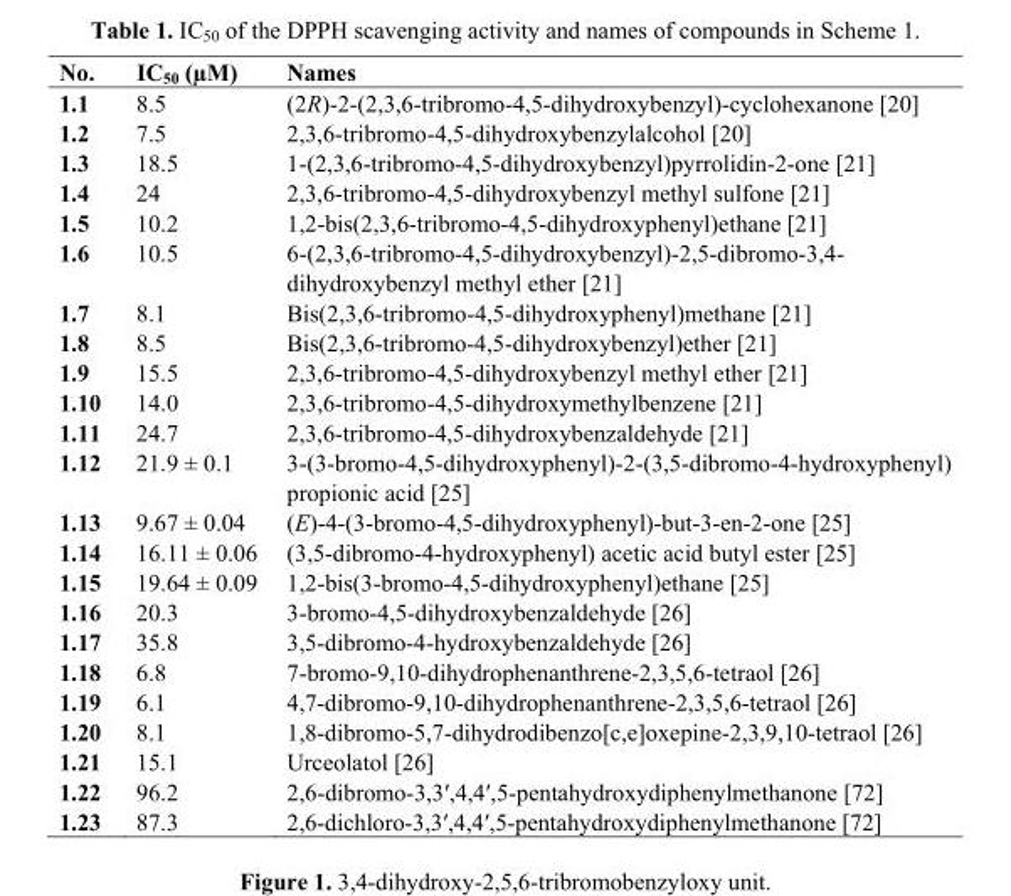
<table><thead><tr><td>No.</td><td>IC<sub>50</sub> (µM)</td><td>Names</td></tr></thead><tbody><tr><td>1.1</td><td>8.5</td><td>(2R)-2-(2,3,6-tribromo-4,5-dihydroxybenzyl)-cyclohexanone [20]</td></tr><tr><td>1.2</td><td>7.5</td><td>2,3,6-tribromo-4,5-dihydroxybenzylalcohol [20]</td></tr><tr><td>1.3</td><td>18.5</td><td>1-(2,3,6-tribromo-4,5-dihydroxybenzyl)pyrrolidin-2-one [21]</td></tr><tr><td>1.4</td><td>24</td><td>2,3,6-tribromo-4,5-dihydroxybenzyl methyl sulfone [21]</td></tr><tr><td>1.5</td><td>10.2</td><td>1,2-bis(2,3,6-tribromo-4,5-dihydroxyphenyl)ethane [21]</td></tr><tr><td>1.6</td><td>10.5</td><td>6-(2,3,6-tribromo-4,5-dihydroxybenzyl)-2,5-dibromo-3,4- dihydroxybenzyl methyl ether [21]</td></tr><tr><td>1.7</td><td>8.1</td><td>Bis(2,3,6-tribromo-4,5-dihydroxyphenyl)methane [21]</td></tr><tr><td>1.8</td><td>8.5</td><td>Bis(2,3,6-tribromo-4,5-dihydroxybenzyl)ether [21]</td></tr><tr><td>1.9</td><td>15.5</td><td>2,3,6-tribromo-4,5-dihydroxybenzyl methyl ether [21]</td></tr><tr><td>1.10</td><td>14.0</td><td>2,3,6-tribromo-4,5-dihydroxymethylbenzene [21]</td></tr><tr><td>1.11</td><td>24.7</td><td>2,3,6-tribromo-4,5-dihydroxybenzaldehyde [21]</td></tr><tr><td>1.12</td><td>21.9 ± 0.1</td><td>3-(3-bromo-4,5-dihydroxyphenyl)-2-(3,5-dibromo-4-hydroxyphenyl) propionic acid [25]</td></tr><tr><td>1.13</td><td>9.67 ± 0.04</td><td>(E)-4-(3-bromo-4,5-dihydroxyphenyl)-but-3-en-2-one [25]</td></tr><tr><td>1.14</td><td>16.11 ± 0.06</td><td>(3,5-dibromo-4-hydroxyphenyl) acetic acid butyl ester [25]</td></tr><tr><td>1.15</td><td>19.64 ± 0.09</td><td>1,2-bis(3-bromo-4,5-dihydroxyphenyl)ethane [25]</td></tr><tr><td>1.16</td><td>20.3</td><td>3-bromo-4,5-dihydroxybenzaldehyde [26]</td></tr><tr><td>1.17</td><td>35.8</td><td>3,5-dibromo-4-hydroxybenzaldehyde [26]</td></tr><tr><td>1.18</td><td>6.8</td><td>7-bromo-9,10-dihydrophenanthrene-2,3,5,6-tetraol [26]</td></tr><tr><td>1.19</td><td>6.1</td><td>4,7-dibromo-9,10-dihydrophenanthrene-2,3,5,6-tetraol [26]</td></tr><tr><td>1.20</td><td>8.1</td><td>1,8-dibromo-5,7-dihydrodibenzo[c,e]oxepine-2,3,9,10-tetraol [26]</td></tr><tr><td>1.21</td><td>15.1</td><td>Urceolatol [26]</td></tr><tr><td>1.22</td><td>96.2</td><td>2,6-dibromo-3,3′,4,4′,5-pentahydroxydiphenylmethanone [72]</td></tr><tr><td>1.23</td><td>87.3</td><td>2,6-dichloro-3,3′,4,4′,5-pentahydroxydiphenylmethanone [72]</td></tr></tbody></table>